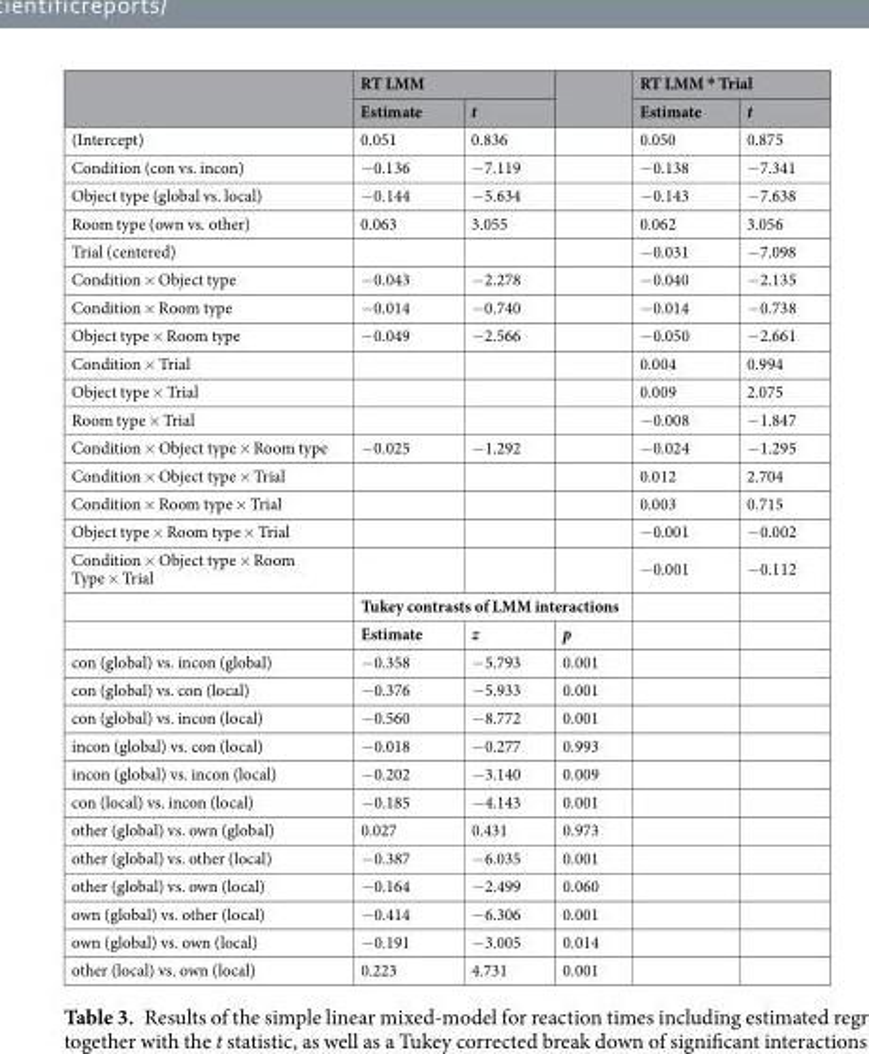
<table><thead><tr><td rowspan="2"></td><td colspan="2">RT LMM</td><td rowspan="2"></td><td colspan="2">RT LMM * Trial</td></tr><tr><td>Estimate</td><td>t</td><td>Estimate</td><td>t</td></tr></thead><tbody><tr><td>(Intercept)</td><td>0.051</td><td>0.836</td><td></td><td>0.050</td><td>0.875</td></tr><tr><td>Condition (con vs. incon)</td><td>−0.136</td><td>−7.119</td><td></td><td>−0.138</td><td>−7.341</td></tr><tr><td>Object type (global vs. local)</td><td>−0.144</td><td>−5.634</td><td></td><td>−0.143</td><td>−7.638</td></tr><tr><td>Room type (own vs. other)</td><td>0.063</td><td>3.055</td><td></td><td>0.062</td><td>3.056</td></tr><tr><td>Trial (centered)</td><td></td><td></td><td></td><td>−0.031</td><td>−7.098</td></tr><tr><td>Condition × Object type</td><td>−0.043</td><td>−2.278</td><td></td><td>−0.040</td><td>−2.135</td></tr><tr><td>Condition × Room type</td><td>−0.014</td><td>−0.740</td><td></td><td>−0.014</td><td>−0.738</td></tr><tr><td>Object type × Room type</td><td>−0.049</td><td>−2.566</td><td></td><td>−0.050</td><td>−2.661</td></tr><tr><td>Condition × Trial</td><td></td><td></td><td></td><td>0.004</td><td>0.994</td></tr><tr><td>Object type × Trial</td><td></td><td></td><td></td><td>0.009</td><td>2.075</td></tr><tr><td>Room type × Trial</td><td></td><td></td><td></td><td>−0.008</td><td>−1.847</td></tr><tr><td>Condition × Object type × Room type</td><td>−0.025</td><td>−1.292</td><td></td><td>−0.024</td><td>−1.295</td></tr><tr><td>Condition × Object type × Trial</td><td></td><td></td><td></td><td>0.012</td><td>2.704</td></tr><tr><td>Condition × Room type × Trial</td><td></td><td></td><td></td><td>0.003</td><td>0.715</td></tr><tr><td>Object type × Room type × Trial</td><td></td><td></td><td></td><td>−0.001</td><td>−0.002</td></tr><tr><td rowspan="3">Condition × Object type × Room Type × Trial</td><td></td><td></td><td></td><td>−0.001</td><td>−0.112</td></tr><tr><td colspan="3">Tukey contrasts of LMM interactions</td><td></td><td></td></tr><tr><td>Estimate</td><td>z</td><td>p</td><td></td><td></td></tr><tr><td>con (global) vs. incon (global)</td><td>−0.358</td><td>−5.793</td><td>0.001</td><td></td><td></td></tr><tr><td>con (global) vs. con (local)</td><td>−0.376</td><td>−5.933</td><td>0.001</td><td></td><td></td></tr><tr><td>con (global) vs. incon (local)</td><td>−0.560</td><td>−8.772</td><td>0.001</td><td></td><td></td></tr><tr><td>incon (global) vs. con (local)</td><td>−0.018</td><td>−0.277</td><td>0.993</td><td></td><td></td></tr><tr><td>incon (global) vs. incon (local)</td><td>−0.202</td><td>−3.140</td><td>0.009</td><td></td><td></td></tr><tr><td>con (local) vs. incon (local)</td><td>−0.185</td><td>−4.143</td><td>0.001</td><td></td><td></td></tr><tr><td>other (global) vs. own (global)</td><td>0.027</td><td>0.431</td><td>0.973</td><td></td><td></td></tr><tr><td>other (global) vs. other (local)</td><td>−0.387</td><td>−6.035</td><td>0.001</td><td></td><td></td></tr><tr><td>other (global) vs. own (local)</td><td>−0.164</td><td>−2.499</td><td>0.060</td><td></td><td></td></tr><tr><td>own (global) vs. other (local)</td><td>−0.414</td><td>−6.306</td><td>0.001</td><td></td><td></td></tr><tr><td>own (global) vs. own (local)</td><td>−0.191</td><td>−3.005</td><td>0.014</td><td></td><td></td></tr><tr><td>other (local) vs. own (local)</td><td>0.223</td><td>4.731</td><td>0.001</td><td></td><td></td></tr></tbody></table>